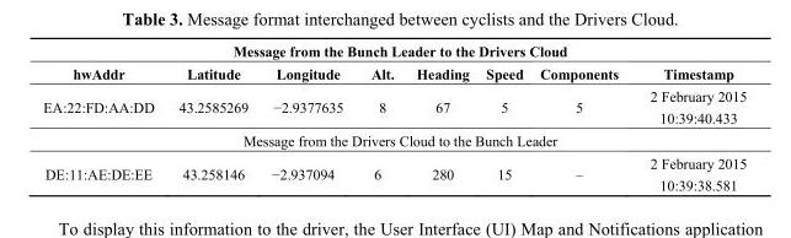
<table><thead><tr><td colspan="8">Message from the Bunch Leader to the Drivers Cloud</td></tr><tr><td>hwAddr</td><td>Latitude</td><td>Longitude</td><td>Alt.</td><td>Heading</td><td>Speed</td><td>Components</td><td>Timestamp</td></tr></thead><tbody><tr><td>EA:22:FD:AA:DD</td><td>43.2585269</td><td>−2.9377635</td><td>8</td><td>67</td><td>5</td><td>5</td><td>2 February 2015 10:39:40.433</td></tr><tr><td colspan="8">Message from the Drivers Cloud to the Bunch Leader</td></tr><tr><td>DE:11:AE:DE:EE</td><td>43.258146</td><td>−2.937094</td><td>6</td><td>280</td><td>15</td><td>–</td><td>2 February 2015 10:39:38.581</td></tr></tbody></table>